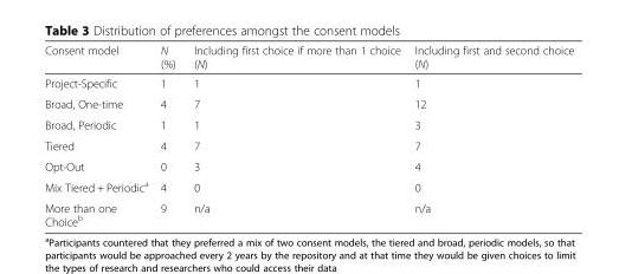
<table><thead><tr><td>Consent model</td><td>N (%)</td><td>Including first choice if more than 1 choice (N)</td><td>Including first and second choice (N)</td></tr></thead><tbody><tr><td>Project-Specific</td><td>1</td><td>1</td><td>1</td></tr><tr><td>Broad, One-time</td><td>4</td><td>7</td><td>12</td></tr><tr><td>Broad, Periodic</td><td>1</td><td>1</td><td>3</td></tr><tr><td>Tiered</td><td>4</td><td>7</td><td>7</td></tr><tr><td>Opt-Out</td><td>0</td><td>3</td><td>4</td></tr><tr><td>Mix Tiered + Periodic<sup>a</sup></td><td>4</td><td>0</td><td>0</td></tr><tr><td>More than one Choice<sup>b</sup></td><td>9</td><td>n/a</td><td>n/a</td></tr></tbody></table>